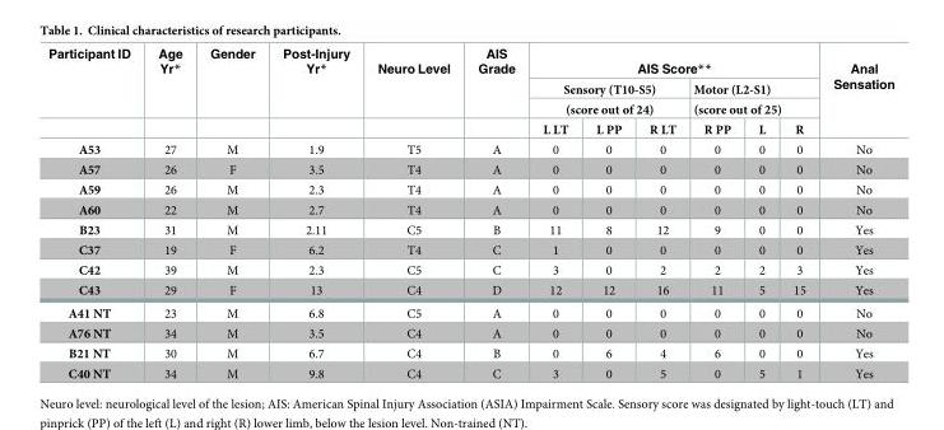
<table><thead><tr><td rowspan="4">Participant ID</td><td rowspan="4">Age Yr*</td><td rowspan="4">Gender</td><td rowspan="4">Post-Injury Yr*</td><td rowspan="4">Neuro Level</td><td rowspan="4">AIS Grade</td><td colspan="6">AIS Score**</td><td rowspan="4">Anal Sensation</td></tr><tr><td rowspan="2" colspan="3">Sensory (T10-S5) (score out of 24)</td><td rowspan="2" colspan="3">Motor (L2-S1) (score out of 25)</td></tr><tr></tr><tr><td>L LT</td><td>L PP</td><td>R LT</td><td>R PP</td><td>L</td><td>R</td></tr></thead><tbody><tr><td>A53</td><td>27</td><td>M</td><td>1.9</td><td>T5</td><td>A</td><td>0</td><td>0</td><td>0</td><td>0</td><td>0</td><td>0</td><td>No</td></tr><tr><td>A57</td><td>26</td><td>F</td><td>3.5</td><td>T4</td><td>A</td><td>0</td><td>0</td><td>0</td><td>0</td><td>0</td><td>0</td><td>No</td></tr><tr><td>A59</td><td>26</td><td>M</td><td>2.3</td><td>T4</td><td>A</td><td>0</td><td>0</td><td>0</td><td>0</td><td>0</td><td>0</td><td>No</td></tr><tr><td>A60</td><td>22</td><td>M</td><td>2.7</td><td>T4</td><td>A</td><td>0</td><td>0</td><td>0</td><td>0</td><td>0</td><td>0</td><td>No</td></tr><tr><td>B23</td><td>31</td><td>M</td><td>2.11</td><td>C5</td><td>B</td><td>11</td><td>8</td><td>12</td><td>9</td><td>0</td><td>0</td><td>Yes</td></tr><tr><td>C37</td><td>19</td><td>F</td><td>6.2</td><td>T4</td><td>C</td><td>1</td><td>0</td><td>0</td><td>0</td><td>0</td><td>0</td><td>Yes</td></tr><tr><td>C42</td><td>39</td><td>M</td><td>2.3</td><td>C5</td><td>C</td><td>3</td><td>0</td><td>2</td><td>2</td><td>2</td><td>3</td><td>Yes</td></tr><tr><td>C43</td><td>29</td><td>F</td><td>13</td><td>C4</td><td>D</td><td>12</td><td>12</td><td>16</td><td>11</td><td>5</td><td>15</td><td>Yes</td></tr><tr><td>A41 NT</td><td>23</td><td>M</td><td>6.8</td><td>C5</td><td>A</td><td>0</td><td>0</td><td>0</td><td>0</td><td>0</td><td>0</td><td>No</td></tr><tr><td>A76 NT</td><td>34</td><td>M</td><td>3.5</td><td>C4</td><td>A</td><td>0</td><td>0</td><td>0</td><td>0</td><td>0</td><td>0</td><td>No</td></tr><tr><td>B21 NT</td><td>30</td><td>M</td><td>6.7</td><td>C4</td><td>B</td><td>0</td><td>6</td><td>4</td><td>6</td><td>0</td><td>0</td><td>Yes</td></tr><tr><td>C40 NT</td><td>34</td><td>M</td><td>9.8</td><td>C4</td><td>C</td><td>3</td><td>0</td><td>5</td><td>0</td><td>5</td><td>1</td><td>Yes</td></tr></tbody></table>